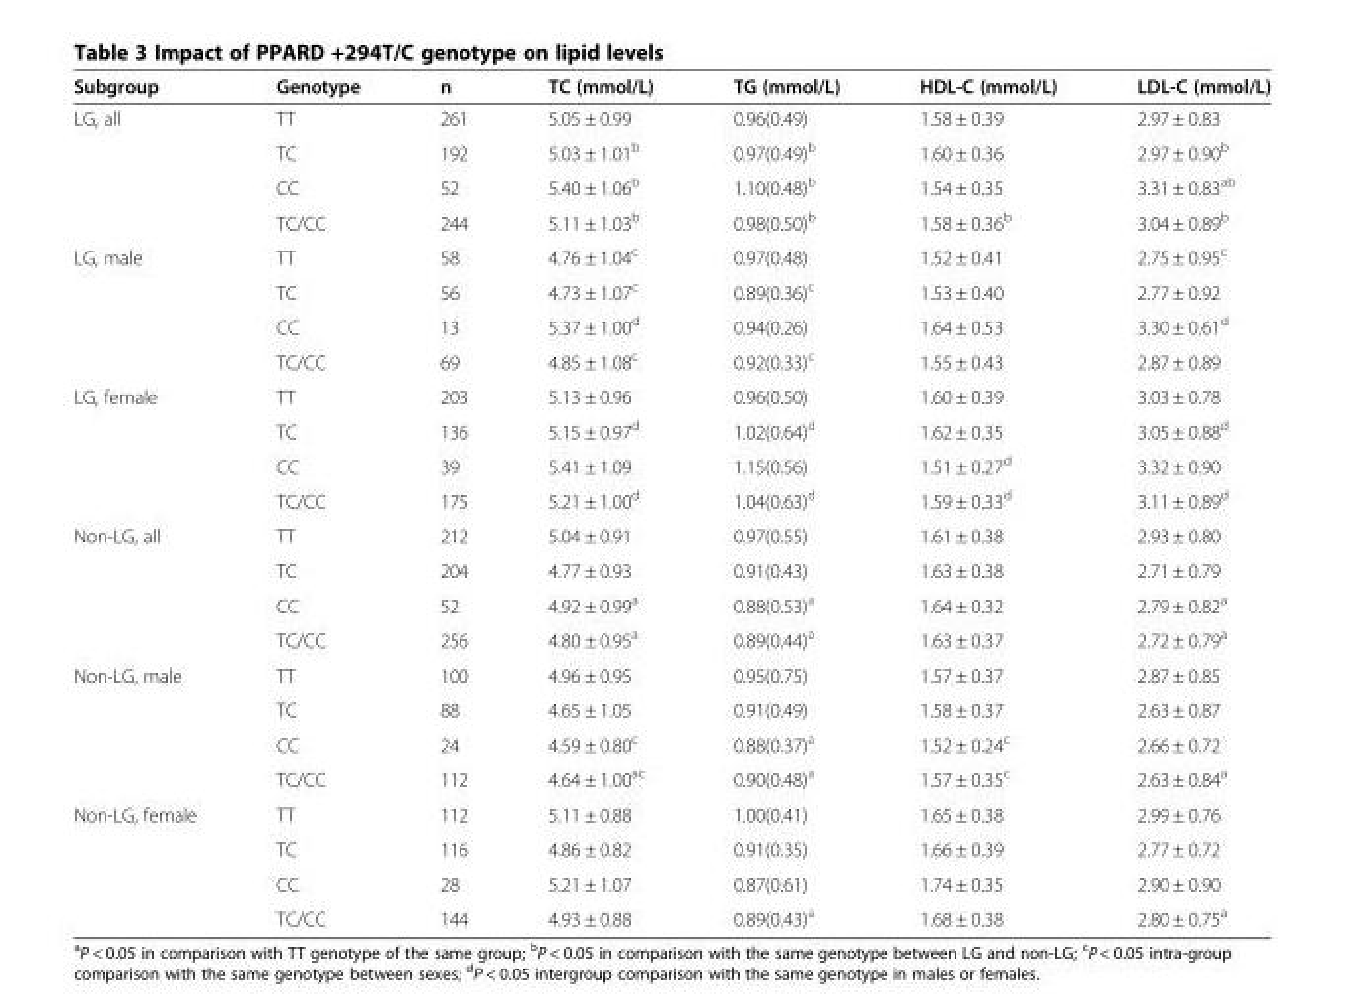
<table><thead><tr><td>Subgroup</td><td>Genotype</td><td>n</td><td>TC (mmol/L)</td><td>TG (mmol/L)</td><td>HDL-C (mmol/L)</td><td>LDL-C (mmol/L)</td></tr></thead><tbody><tr><td rowspan="4">LG, all</td><td>TT</td><td>261</td><td>5.05 ± 0.99</td><td>0.96(0.49)</td><td>1.58 ± 0.39</td><td>2.97 ± 0.83</td></tr><tr><td>TC</td><td>192</td><td>5.03 ± 1.01<sup>b</sup></td><td>0.97(0.49)<sup>b</sup></td><td>1.60 ± 0.36</td><td>2.97 ± 0.90<sup>b</sup></td></tr><tr><td>CC</td><td>52</td><td>5.40 ± 1.06<sup>b</sup></td><td>1.10(0.48)<sup>b</sup></td><td>1.54 ± 0.35</td><td>3.31 ± 0.83<sup>ab</sup></td></tr><tr><td>TC/CC</td><td>244</td><td>5.11 ± 1.03<sup>b</sup></td><td>0.98(0.50)<sup>b</sup></td><td>1.58 ± 0.36<sup>b</sup></td><td>3.04 ± 0.89<sup>b</sup></td></tr><tr><td rowspan="4">LG, male</td><td>TT</td><td>58</td><td>4.76 ± 1.04<sup>c</sup></td><td>0.97(0.48)</td><td>1.52 ± 0.41</td><td>2.75 ± 0.95<sup>c</sup></td></tr><tr><td>TC</td><td>56</td><td>4.73 ± 1.07<sup>c</sup></td><td>0.89(0.36)<sup>c</sup></td><td>1.53 ± 0.40</td><td>2.77 ± 0.92</td></tr><tr><td>CC</td><td>13</td><td>5.37 ± 1.00<sup>d</sup></td><td>0.94(0.26)</td><td>1.64 ± 0.53</td><td>3.30 ± 0.61<sup>d</sup></td></tr><tr><td>TC/CC</td><td>69</td><td>4.85 ± 1.08<sup>c</sup></td><td>0.92(0.33)<sup>c</sup></td><td>1.55 ± 0.43</td><td>2.87 ± 0.89</td></tr><tr><td rowspan="4">LG, female</td><td>TT</td><td>203</td><td>5.13 ± 0.96</td><td>0.96(0.50)</td><td>1.60 ± 0.39</td><td>3.03 ± 0.78</td></tr><tr><td>TC</td><td>136</td><td>5.15 ± 0.97<sup>d</sup></td><td>1.02(0.64)<sup>d</sup></td><td>1.62 ± 0.35</td><td>3.05 ± 0.88<sup>d</sup></td></tr><tr><td>CC</td><td>39</td><td>5.41 ± 1.09</td><td>1.15(0.56)</td><td>1.51 ± 0.27<sup>d</sup></td><td>3.32 ± 0.90</td></tr><tr><td>TC/CC</td><td>175</td><td>5.21 ± 1.00<sup>d</sup></td><td>1.04(0.63)<sup>d</sup></td><td>1.59 ± 0.33<sup>d</sup></td><td>3.11 ± 0.89<sup>d</sup></td></tr><tr><td rowspan="4">Non-LG, all</td><td>TT</td><td>212</td><td>5.04 ± 0.91</td><td>0.97(0.55)</td><td>1.61 ± 0.38</td><td>2.93 ± 0.80</td></tr><tr><td>TC</td><td>204</td><td>4.77 ± 0.93</td><td>0.91(0.43)</td><td>1.63 ± 0.38</td><td>2.71 ± 0.79</td></tr><tr><td>CC</td><td>52</td><td>4.92 ± 0.99<sup>a</sup></td><td>0.88(0.53)<sup>a</sup></td><td>1.64 ± 0.32</td><td>2.79 ± 0.82<sup>a</sup></td></tr><tr><td>TC/CC</td><td>256</td><td>4.80 ± 0.95<sup>a</sup></td><td>0.89(0.44)<sup>a</sup></td><td>1.63 ± 0.37</td><td>2.72 ± 0.79<sup>a</sup></td></tr><tr><td rowspan="4">Non-LG, male</td><td>TT</td><td>100</td><td>4.96 ± 0.95</td><td>0.95(0.75)</td><td>1.57 ± 0.37</td><td>2.87 ± 0.85</td></tr><tr><td>TC</td><td>88</td><td>4.65 ± 1.05</td><td>0.91(0.49)</td><td>1.58 ± 0.37</td><td>2.63 ± 0.87</td></tr><tr><td>CC</td><td>24</td><td>4.59 ± 0.80<sup>c</sup></td><td>0.88(0.37)<sup>a</sup></td><td>1.52 ± 0.24<sup>c</sup></td><td>2.66 ± 0.72</td></tr><tr><td>TC/CC</td><td>112</td><td>4.64 ± 1.00<sup>ac</sup></td><td>0.90(0.48)<sup>a</sup></td><td>1.57 ± 0.35<sup>c</sup></td><td>2.63 ± 0.84<sup>a</sup></td></tr><tr><td rowspan="4">Non-LG, female</td><td>TT</td><td>112</td><td>5.11 ± 0.88</td><td>1.00(0.41)</td><td>1.65 ± 0.38</td><td>2.99 ± 0.76</td></tr><tr><td>TC</td><td>116</td><td>4.86 ± 0.82</td><td>0.91(0.35)</td><td>1.66 ± 0.39</td><td>2.77 ± 0.72</td></tr><tr><td>CC</td><td>28</td><td>5.21 ± 1.07</td><td>0.87(0.61)</td><td>1.74 ± 0.35</td><td>2.90 ± 0.90</td></tr><tr><td>TC/CC</td><td>144</td><td>4.93 ± 0.88</td><td>0.89(0.43)<sup>a</sup></td><td>1.68 ± 0.38</td><td>2.80 ± 0.75<sup>a</sup></td></tr></tbody></table>